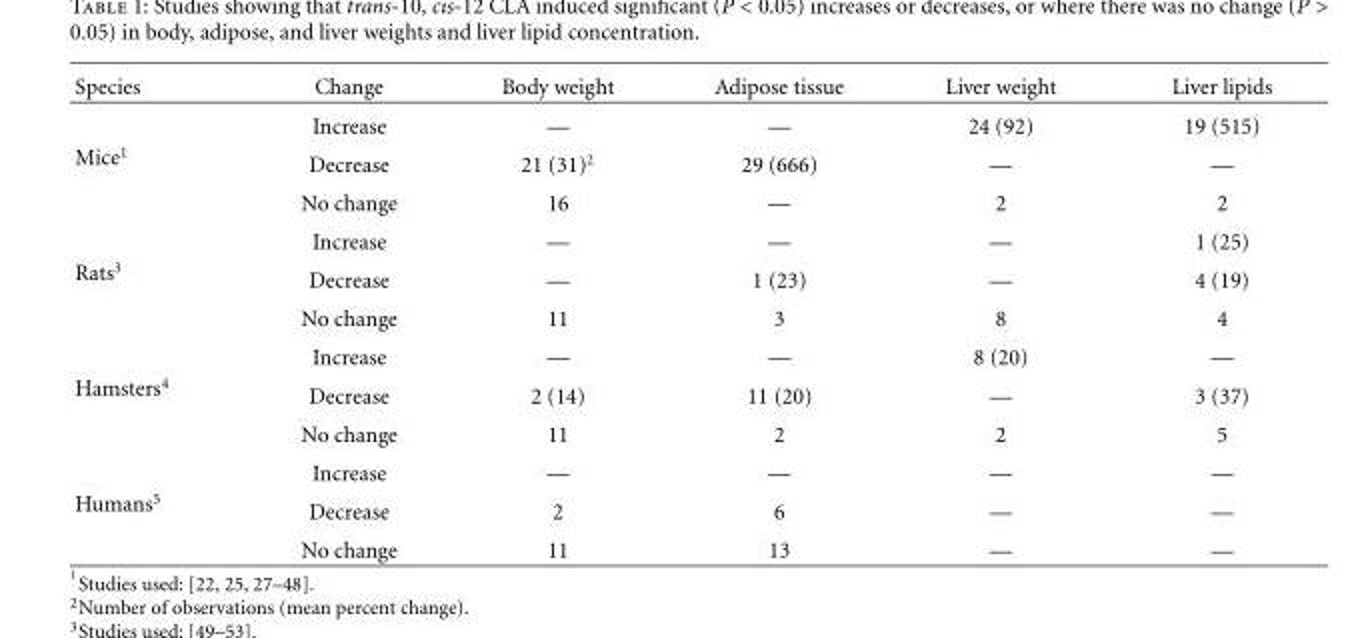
<table><thead><tr><td>Species</td><td>Change</td><td>Body weight</td><td>Adipose tissue</td><td>Liver weight</td><td>Liver lipids</td></tr></thead><tbody><tr><td rowspan="3">Mice<sup>1</sup></td><td>Increase</td><td>—</td><td>—</td><td>24 (92)</td><td>19 (515)</td></tr><tr><td>Decrease</td><td>21 (31)<sup>2</sup></td><td>29 (666)</td><td>—</td><td>—</td></tr><tr><td>No change</td><td>16</td><td>—</td><td>2</td><td>2</td></tr><tr><td rowspan="3">Rats<sup>3</sup></td><td>Increase</td><td>—</td><td>—</td><td>—</td><td>1 (25)</td></tr><tr><td>Decrease</td><td>—</td><td>1 (23)</td><td>—</td><td>4 (19)</td></tr><tr><td>No change</td><td>11</td><td>3</td><td>8</td><td>4</td></tr><tr><td rowspan="3">Hamsters<sup>4</sup></td><td>Increase</td><td>—</td><td>—</td><td>8 (20)</td><td>—</td></tr><tr><td>Decrease</td><td>2 (14)</td><td>11 (20)</td><td>—</td><td>3 (37)</td></tr><tr><td>No change</td><td>11</td><td>2</td><td>2</td><td>5</td></tr><tr><td rowspan="3">Humans<sup>5</sup></td><td>Increase</td><td>—</td><td>—</td><td>—</td><td>—</td></tr><tr><td>Decrease</td><td>2</td><td>6</td><td>—</td><td>—</td></tr><tr><td>No change</td><td>11</td><td>13</td><td>—</td><td>—</td></tr></tbody></table>